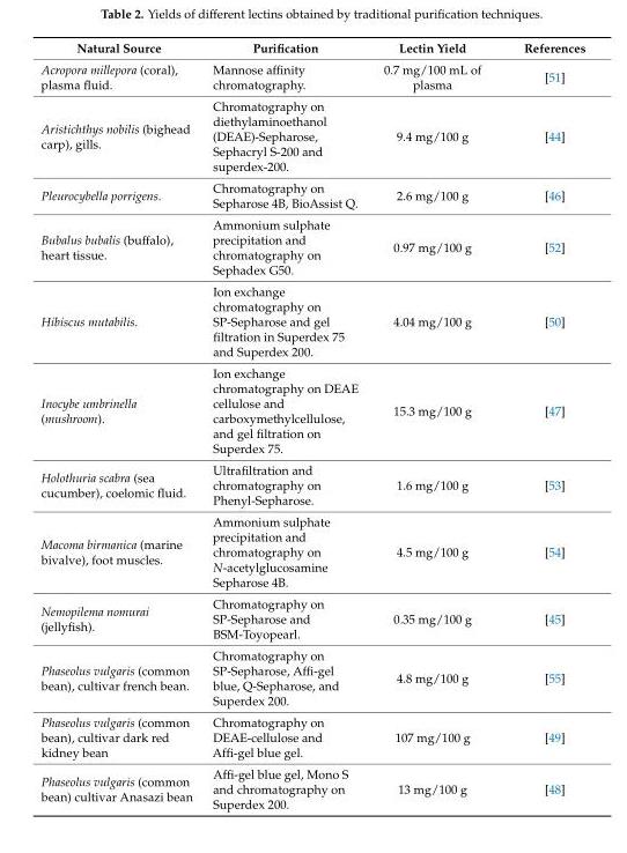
<table><thead><tr><td>Natural Source</td><td>Purification</td><td>Lectin Yield</td><td>References</td></tr></thead><tbody><tr><td>Acropora millepora (coral), plasma fluid.</td><td>Mannose affinity chromatography.</td><td>0.7 mg/100 mL of plasma</td><td>[51]</td></tr><tr><td>Aristichthys nobilis (bighead carp), gills.</td><td>Chromatography on diethylaminoethanol (DEAE)-Sepharose, Sephacryl S-200 and superdex-200.</td><td>9.4 mg/100 g</td><td>[44]</td></tr><tr><td>Pleurocybella porrigens.</td><td>Chromatography on Sepharose 4B, BioAssist Q.</td><td>2.6 mg/100 g</td><td>[46]</td></tr><tr><td>Bubalus bubalis (buffalo), heart tissue.</td><td>Ammonium sulphate precipitation and chromatography on Sephadex G50.</td><td>0.97 mg/100 g</td><td>[52]</td></tr><tr><td>Hibiscus mutabilis.</td><td>Ion exchange chromatography on SP-Sepharose and gel filtration in Superdex 75 and Superdex 200.</td><td>4.04 mg/100 g</td><td>[50]</td></tr><tr><td>Inocybe umbrinella (mushroom).</td><td>Ion exchange chromatography on DEAE cellulose and carboxymethylcellulose, and gel filtration on Superdex 75.</td><td>15.3 mg/100 g</td><td>[47]</td></tr><tr><td>Holothuria scabra (sea cucumber), coelomic fluid.</td><td>Ultrafiltration and chromatography on Phenyl-Sepharose.</td><td>1.6 mg/100 g</td><td>[53]</td></tr><tr><td>Macoma birmanica (marine bivalve), foot muscles.</td><td>Ammonium sulphate precipitation and chromatography on N-acetylglucosamine Sepharose 4B.</td><td>4.5 mg/100 g</td><td>[54]</td></tr><tr><td>Nemopilema nomurai (jellyfish).</td><td>Chromatography on SP-Sepharose and BSM-Toyopearl.</td><td>0.35 mg/100 g</td><td>[45]</td></tr><tr><td>Phaseolus vulgaris (common bean), cultivar french bean.</td><td>Chromatography on SP-Sepharose, Affi-gel blue, Q-Sepharose, and Superdex 200.</td><td>4.8 mg/100 g</td><td>[55]</td></tr><tr><td>Phaseolus vulgaris (common bean), cultivar dark red kidney bean</td><td>Chromatography on DEAE-cellulose and Affi-gel blue gel.</td><td>107 mg/100 g</td><td>[49]</td></tr><tr><td>Phaseolus vulgaris (common bean) cultivar Anasazi bean</td><td>Affi-gel blue gel, Mono S and chromatography on Superdex 200.</td><td>13 mg/100 g</td><td>[48]</td></tr></tbody></table>